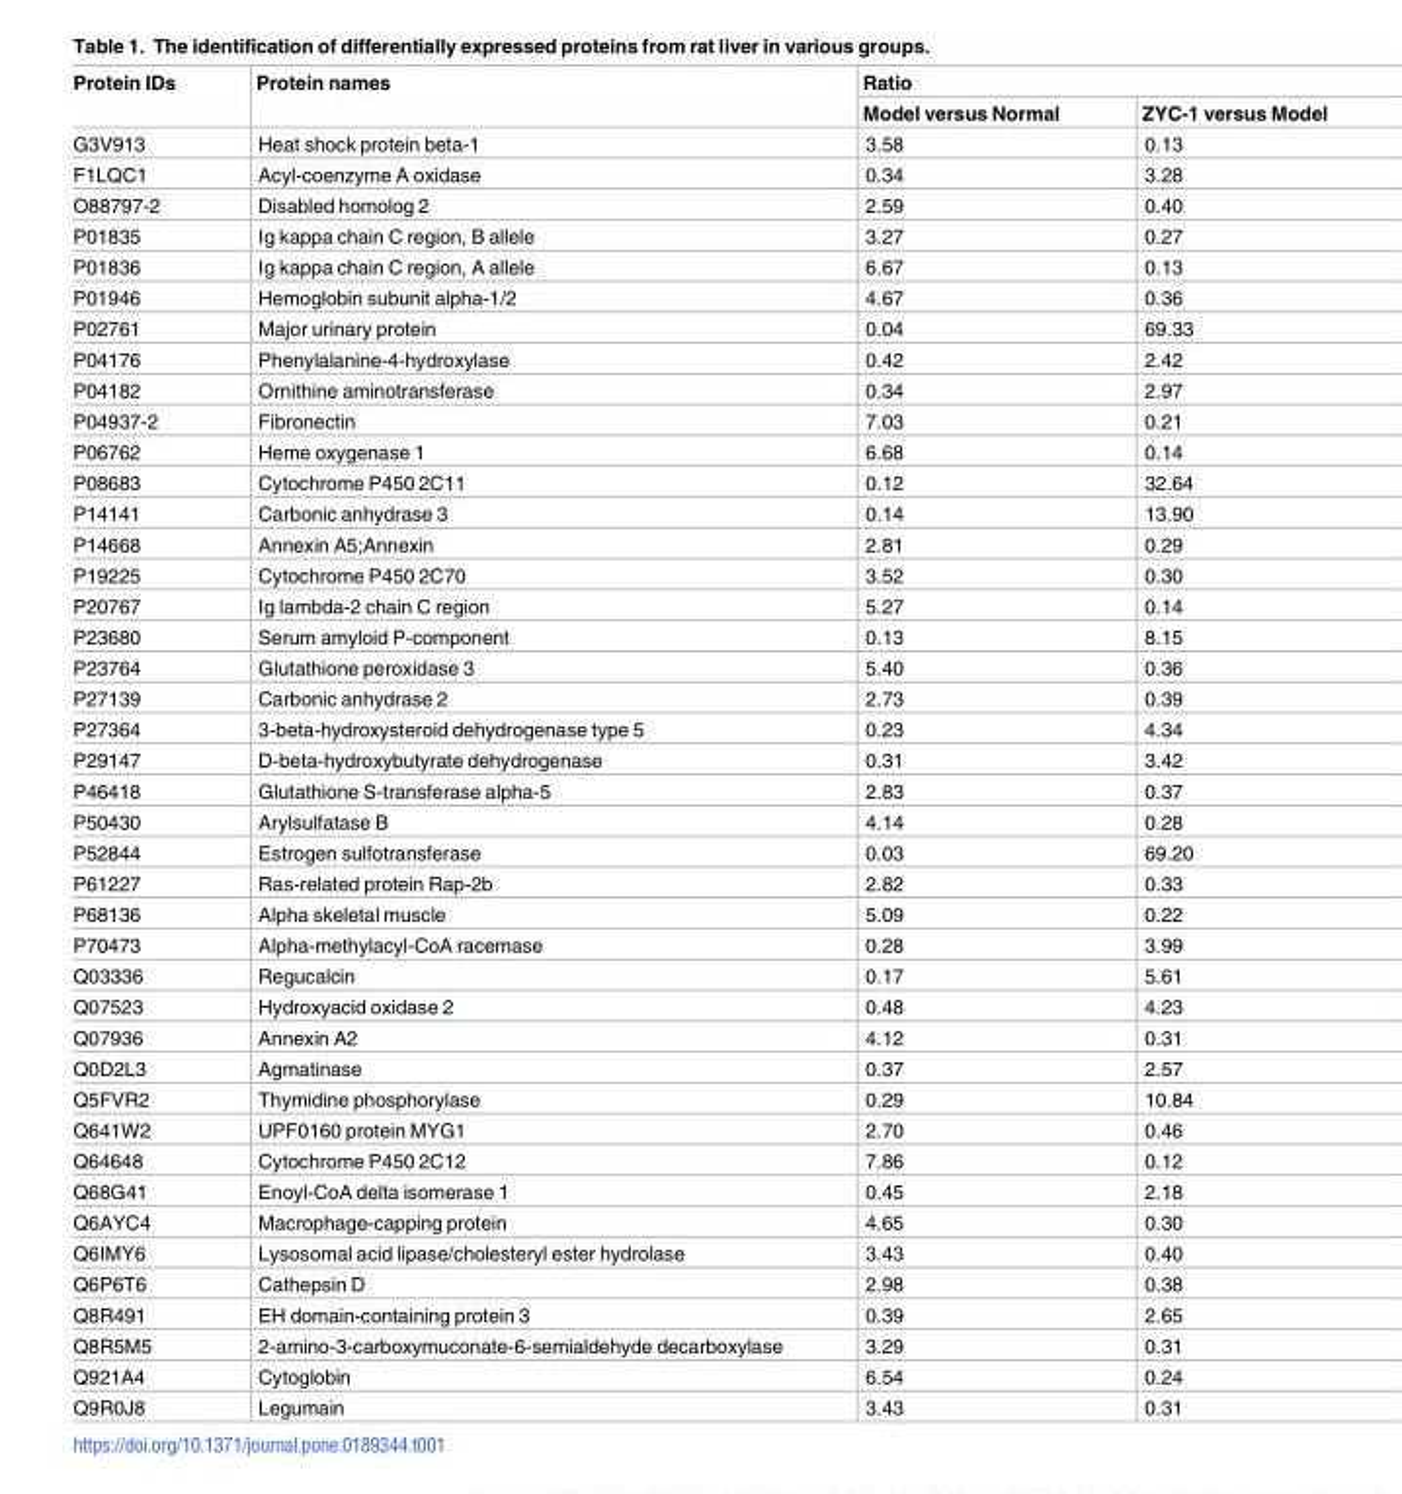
<table><thead><tr><td rowspan="2">Protein IDs</td><td rowspan="2">Protein names</td><td colspan="2">Ratio</td></tr><tr><td>Model versus Normal</td><td>ZYC-1 versus Model</td></tr></thead><tbody><tr><td>G3V913</td><td>Heat shock protein beta-1</td><td>3.58</td><td>0.13</td></tr><tr><td>F1LQC1</td><td>Acyl-coenzyme A oxidase</td><td>0.34</td><td>3.28</td></tr><tr><td>O88797-2</td><td>Disabled homolog 2</td><td>2.59</td><td>0.40</td></tr><tr><td>P01835</td><td>Ig kappa chain C region, B allele</td><td>3.27</td><td>0.27</td></tr><tr><td>P01836</td><td>Ig kappa chain C region, A allele</td><td>6.67</td><td>0.13</td></tr><tr><td>P01946</td><td>Hemoglobin subunit alpha-1/2</td><td>4.67</td><td>0.36</td></tr><tr><td>P02761</td><td>Major urinary protein</td><td>0.04</td><td>69.33</td></tr><tr><td>P04176</td><td>Phenylalanine-4-hydroxylase</td><td>0.42</td><td>2.42</td></tr><tr><td>P04182</td><td>Ornithine aminotransferase</td><td>0.34</td><td>2.97</td></tr><tr><td>P04937-2</td><td>Fibronectin</td><td>7.03</td><td>0.21</td></tr><tr><td>P06762</td><td>Heme oxygenase 1</td><td>6.68</td><td>0.14</td></tr><tr><td>P08683</td><td>Cytochrome P450 2C11</td><td>0.12</td><td>32.64</td></tr><tr><td>P14141</td><td>Carbonic anhydrase 3</td><td>0.14</td><td>13.90</td></tr><tr><td>P14668</td><td>Annexin A5;Annexin</td><td>2.81</td><td>0.29</td></tr><tr><td>P19225</td><td>Cytochrome P450 2C70</td><td>3.52</td><td>0.30</td></tr><tr><td>P20767</td><td>Ig lambda-2 chain C region</td><td>5.27</td><td>0.14</td></tr><tr><td>P23680</td><td>Serum amyloid P-component</td><td>0.13</td><td>8.15</td></tr><tr><td>P23764</td><td>Glutathione peroxidase 3</td><td>5.40</td><td>0.36</td></tr><tr><td>P27139</td><td>Carbonic anhydrase 2</td><td>2.73</td><td>0.39</td></tr><tr><td>P27364</td><td>3-beta-hydroxysteroid dehydrogenase type 5</td><td>0.23</td><td>4.34</td></tr><tr><td>P29147</td><td>D-beta-hydroxybutyrate dehydrogenase</td><td>0.31</td><td>3.42</td></tr><tr><td>P46418</td><td>Glutathione S-transferase alpha-5</td><td>2.83</td><td>0.37</td></tr><tr><td>P50430</td><td>Arylsulfatase B</td><td>4.14</td><td>0.28</td></tr><tr><td>P52844</td><td>Estrogen sulfotransferase</td><td>0.03</td><td>69.20</td></tr><tr><td>P61227</td><td>Ras-related protein Rap-2b</td><td>2.82</td><td>0.33</td></tr><tr><td>P68136</td><td>Alpha skeletal muscle</td><td>5.09</td><td>0.22</td></tr><tr><td>P70473</td><td>Alpha-methylacyl-CoA racemase</td><td>0.28</td><td>3.99</td></tr><tr><td>Q03336</td><td>Regucalcin</td><td>0.17</td><td>5.61</td></tr><tr><td>Q07523</td><td>Hydroxyacid oxidase 2</td><td>0.48</td><td>4.23</td></tr><tr><td>Q07936</td><td>Annexin A2</td><td>4.12</td><td>0.31</td></tr><tr><td>Q0D2L3</td><td>Agmatinase</td><td>0.37</td><td>2.57</td></tr><tr><td>Q5FVR2</td><td>Thymidine phosphorylase</td><td>0.29</td><td>10.84</td></tr><tr><td>Q641W2</td><td>UPF0160 protein MYG1</td><td>2.70</td><td>0.46</td></tr><tr><td>Q64648</td><td>Cytochrome P450 2C12</td><td>7.86</td><td>0.12</td></tr><tr><td>Q68G41</td><td>Enoyl-CoA delta isomerase 1</td><td>0.45</td><td>2.18</td></tr><tr><td>Q6AYC4</td><td>Macrophage-capping protein</td><td>4.65</td><td>0.30</td></tr><tr><td>Q6IMY6</td><td>Lysosomal acid lipase/cholesteryl ester hydrolase</td><td>3.43</td><td>0.40</td></tr><tr><td>Q6P6T6</td><td>Cathepsin D</td><td>2.98</td><td>0.38</td></tr><tr><td>Q8R491</td><td>EH domain-containing protein 3</td><td>0.39</td><td>2.65</td></tr><tr><td>Q8R5M5</td><td>2-amino-3-carboxymuconate-6-semialdehyde decarboxylase</td><td>3.29</td><td>0.31</td></tr><tr><td>Q921A4</td><td>Cytoglobin</td><td>6.54</td><td>0.24</td></tr><tr><td>Q9R0J8</td><td>Legumain</td><td>3.43</td><td>0.31</td></tr></tbody></table>